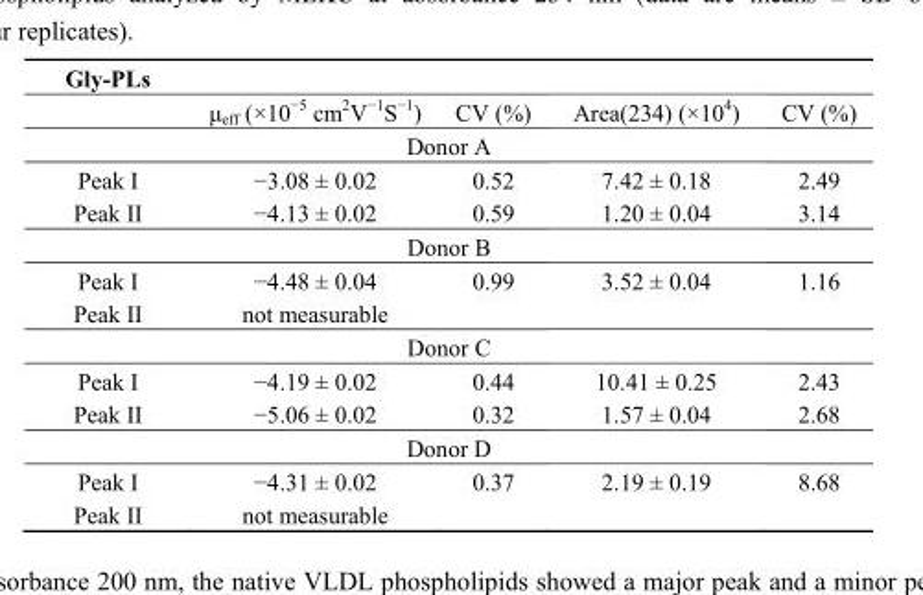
<table><thead><tr><td rowspan="2">Gly-PLs</td><td rowspan="2">μ<sub>eff</sub> (×10<sup>−5</sup> cm<sup>2</sup>V<sup>−1</sup>S<sup>−1</sup>)</td><td rowspan="2">CV (%)</td><td rowspan="2">Area(234) (×10<sup>4</sup>)</td><td rowspan="2">CV (%)</td></tr><tr></tr></thead><tbody><tr><td colspan="5">Donor A</td></tr><tr><td>Peak I</td><td>−3.08 ± 0.02</td><td>0.52</td><td>7.42 ± 0.18</td><td>2.49</td></tr><tr><td>Peak II</td><td>−4.13 ± 0.02</td><td>0.59</td><td>1.20 ± 0.04</td><td>3.14</td></tr><tr><td colspan="5">Donor B</td></tr><tr><td>Peak I</td><td>−4.48 ± 0.04</td><td>0.99</td><td>3.52 ± 0.04</td><td>1.16</td></tr><tr><td>Peak II</td><td>not measurable</td><td></td><td></td><td></td></tr><tr><td colspan="5">Donor C</td></tr><tr><td>Peak I</td><td>−4.19 ± 0.02</td><td>0.44</td><td>10.41 ± 0.25</td><td>2.43</td></tr><tr><td>Peak II</td><td>−5.06 ± 0.02</td><td>0.32</td><td>1.57 ± 0.04</td><td>2.68</td></tr><tr><td colspan="5">Donor D</td></tr><tr><td>Peak I</td><td>−4.31 ± 0.02</td><td>0.37</td><td>2.19 ± 0.19</td><td>8.68</td></tr><tr><td>Peak II</td><td>not measurable</td><td></td><td></td><td></td></tr></tbody></table>